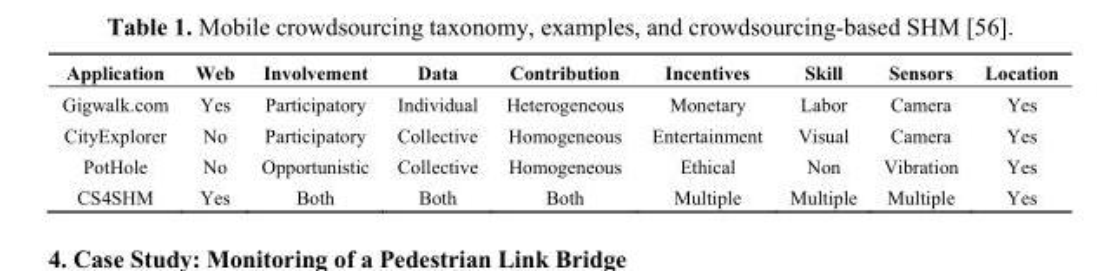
<table><thead><tr><td>Application</td><td>Web</td><td>Involvement</td><td>Data</td><td>Contribution</td><td>Incentives</td><td>Skill</td><td>Sensors</td><td>Location</td></tr></thead><tbody><tr><td>Gigwalk.com</td><td>Yes</td><td>Participatory</td><td>Individual</td><td>Heterogeneous</td><td>Monetary</td><td>Labor</td><td>Camera</td><td>Yes</td></tr><tr><td>CityExplorer</td><td>No</td><td>Participatory</td><td>Collective</td><td>Homogeneous</td><td>Entertainment</td><td>Visual</td><td>Camera</td><td>Yes</td></tr><tr><td>PotHole</td><td>No</td><td>Opportunistic</td><td>Collective</td><td>Homogeneous</td><td>Ethical</td><td>Non</td><td>Vibration</td><td>Yes</td></tr><tr><td>CS4SHM</td><td>Yes</td><td>Both</td><td>Both</td><td>Both</td><td>Multiple</td><td>Multiple</td><td>Multiple</td><td>Yes</td></tr></tbody></table>